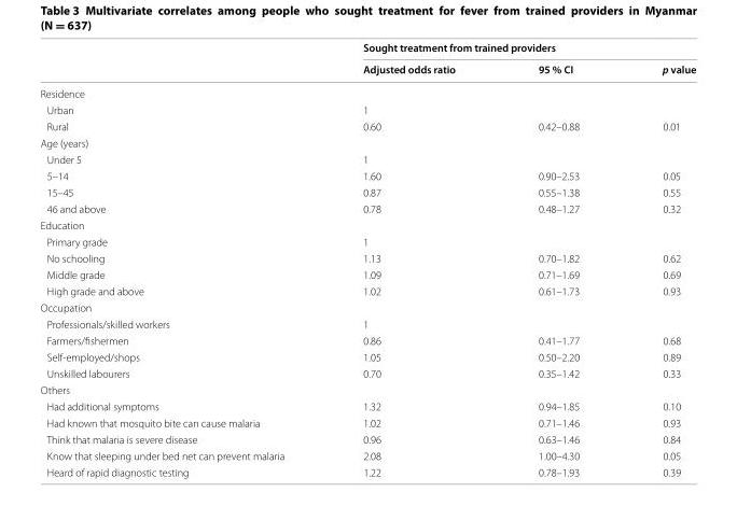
<table><thead><tr><td rowspan="2"></td><td colspan="3">Sought treatment from trained providers</td></tr><tr><td>Adjusted odds ratio</td><td>95 % CI</td><td>p value</td></tr></thead><tbody><tr><td colspan="4">Residence</td></tr><tr><td>Urban</td><td>1</td><td></td><td></td></tr><tr><td>Rural</td><td>0.60</td><td>0.42–0.88</td><td>0.01</td></tr><tr><td colspan="4">Age (years)</td></tr><tr><td>Under 5</td><td>1</td><td></td><td></td></tr><tr><td>5–14</td><td>1.60</td><td>0.90–2.53</td><td>0.05</td></tr><tr><td>15–45</td><td>0.87</td><td>0.55–1.38</td><td>0.55</td></tr><tr><td>46 and above</td><td>0.78</td><td>0.48–1.27</td><td>0.32</td></tr><tr><td colspan="4">Education</td></tr><tr><td>Primary grade</td><td>1</td><td></td><td></td></tr><tr><td>No schooling</td><td>1.13</td><td>0.70–1.82</td><td>0.62</td></tr><tr><td>Middle grade</td><td>1.09</td><td>0.71–1.69</td><td>0.69</td></tr><tr><td>High grade and above</td><td>1.02</td><td>0.61–1.73</td><td>0.93</td></tr><tr><td colspan="4">Occupation</td></tr><tr><td>Professionals/skilled workers</td><td>1</td><td></td><td></td></tr><tr><td>Farmers/fishermen</td><td>0.86</td><td>0.41–1.77</td><td>0.68</td></tr><tr><td>Self-employed/shops</td><td>1.05</td><td>0.50–2.20</td><td>0.89</td></tr><tr><td>Unskilled labourers</td><td>0.70</td><td>0.35–1.42</td><td>0.33</td></tr><tr><td colspan="4">Others</td></tr><tr><td>Had additional symptoms</td><td>1.32</td><td>0.94–1.85</td><td>0.10</td></tr><tr><td>Had known that mosquito bite can cause malaria</td><td>1.02</td><td>0.71–1.46</td><td>0.93</td></tr><tr><td>Think that malaria is severe disease</td><td>0.96</td><td>0.63–1.46</td><td>0.84</td></tr><tr><td>Know that sleeping under bed net can prevent malaria</td><td>2.08</td><td>1.00–4.30</td><td>0.05</td></tr><tr><td>Heard of rapid diagnostic testing</td><td>1.22</td><td>0.78–1.93</td><td>0.39</td></tr></tbody></table>